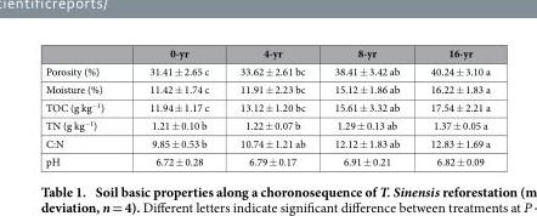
<table><thead><tr><td></td><td>0-yr</td><td>4-yr</td><td>8-yr</td><td>16-yr</td></tr></thead><tbody><tr><td>Porosity (%)</td><td>31.41 ± 2.65 c</td><td>33.62 ± 2.61 bc</td><td>38.41 ± 3.42 ab</td><td>40.24 ± 3.10 a</td></tr><tr><td>Moisture (%)</td><td>11.42 ± 1.74 c</td><td>11.91 ± 2.23 bc</td><td>15.12 ± 1.86 ab</td><td>16.22 ± 1.83 a</td></tr><tr><td>TOC (g kg<sup>−1</sup>)</td><td>11.94 ± 1.17 c</td><td>13.12 ± 1.20 bc</td><td>15.61 ± 3.32 ab</td><td>17.54 ± 2.21 a</td></tr><tr><td>TN (g kg<sup>−1</sup>)</td><td>1.21 ± 0.10 b</td><td>1.22 ± 0.07 b</td><td>1.29 ± 0.13 ab</td><td>1.37 ± 0.05 a</td></tr><tr><td>C:N</td><td>9.85 ± 0.53 b</td><td>10.74 ± 1.21 ab</td><td>12.12 ± 1.83 ab</td><td>12.83 ± 1.69 a</td></tr><tr><td>pH</td><td>6.72 ± 0.28</td><td>6.79 ± 0.17</td><td>6.91 ± 0.21</td><td>6.82 ± 0.09</td></tr></tbody></table>